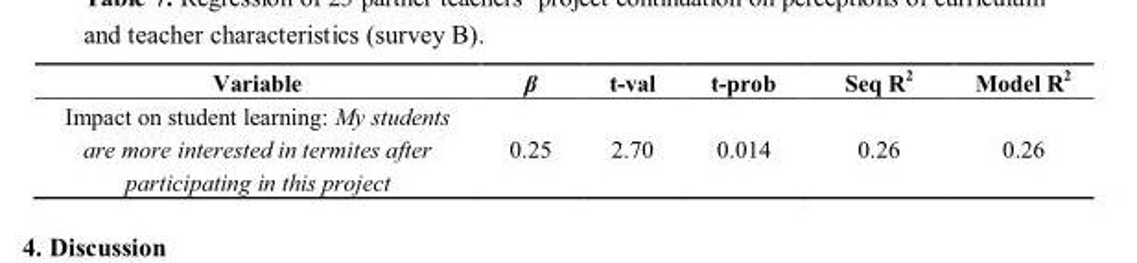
<table><thead><tr><td>Variable</td><td>β</td><td>t-val</td><td>t-prob</td><td>Seq R<sup>2</sup></td><td>Model R<sup>2</sup></td></tr></thead><tbody><tr><td>Impact on student learning: My students are more interested in termites after participating in this project</td><td>0.25</td><td>2.70</td><td>0.014</td><td>0.26</td><td>0.26</td></tr></tbody></table>